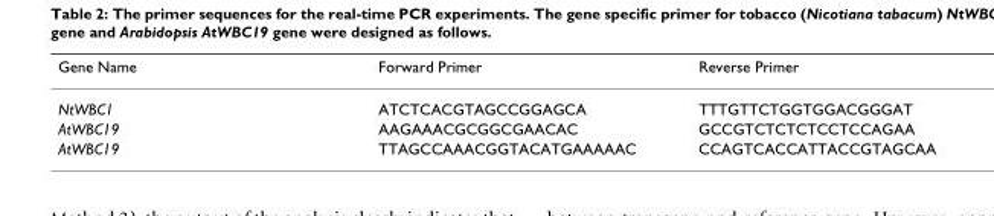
<table><thead><tr><td>Gene Name</td><td>Forward Primer</td><td>Reverse Primer</td></tr></thead><tbody><tr><td>NtWBC1</td><td>ATCTCACGTAGCCGGAGCA</td><td>TTTGTTCTGGTGGACGGGAT</td></tr><tr><td>AtWBC19</td><td>AAGAAACGCGGCGAACAC</td><td>GCCGTCTCTCTCCTCCAGAA</td></tr><tr><td>AtWBC19</td><td>TTAGCCAAACGGTACATGAAAAAC</td><td>CCAGTCACCATTACCGTAGCAA</td></tr></tbody></table>